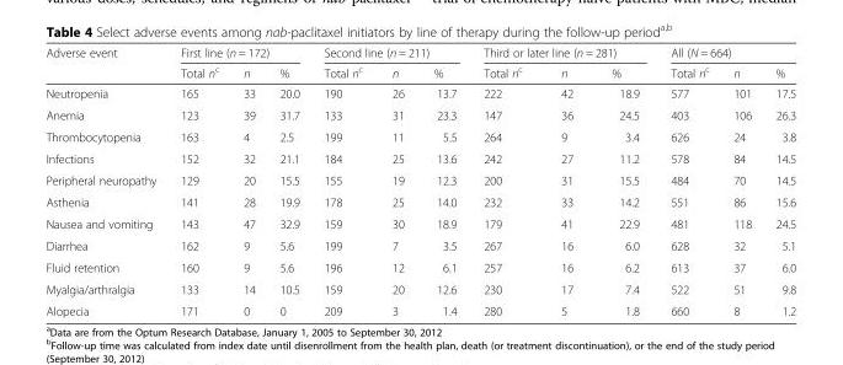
<table><thead><tr><td rowspan="2">Adverse event</td><td colspan="3">First line (n = 172)</td><td colspan="3">Second line (n = 211)</td><td colspan="3">Third or later line (n = 281)</td><td colspan="3">All (N = 664)</td></tr><tr><td>Total n<sup>c</sup></td><td>n</td><td>%</td><td>Total n<sup>c</sup></td><td>n</td><td>%</td><td>Total n<sup>c</sup></td><td>n</td><td>%</td><td>Total n<sup>c</sup></td><td>n</td><td>%</td></tr></thead><tbody><tr><td>Neutropenia</td><td>165</td><td>33</td><td>20.0</td><td>190</td><td>26</td><td>13.7</td><td>222</td><td>42</td><td>18.9</td><td>577</td><td>101</td><td>17.5</td></tr><tr><td>Anemia</td><td>123</td><td>39</td><td>31.7</td><td>133</td><td>31</td><td>23.3</td><td>147</td><td>36</td><td>24.5</td><td>403</td><td>106</td><td>26.3</td></tr><tr><td>Thrombocytopenia</td><td>163</td><td>4</td><td>2.5</td><td>199</td><td>11</td><td>5.5</td><td>264</td><td>9</td><td>3.4</td><td>626</td><td>24</td><td>3.8</td></tr><tr><td>Infections</td><td>152</td><td>32</td><td>21.1</td><td>184</td><td>25</td><td>13.6</td><td>242</td><td>27</td><td>11.2</td><td>578</td><td>84</td><td>14.5</td></tr><tr><td>Peripheral neuropathy</td><td>129</td><td>20</td><td>15.5</td><td>155</td><td>19</td><td>12.3</td><td>200</td><td>31</td><td>15.5</td><td>484</td><td>70</td><td>14.5</td></tr><tr><td>Asthenia</td><td>141</td><td>28</td><td>19.9</td><td>178</td><td>25</td><td>14.0</td><td>232</td><td>33</td><td>14.2</td><td>551</td><td>86</td><td>15.6</td></tr><tr><td>Nausea and vomiting</td><td>143</td><td>47</td><td>32.9</td><td>159</td><td>30</td><td>18.9</td><td>179</td><td>41</td><td>22.9</td><td>481</td><td>118</td><td>24.5</td></tr><tr><td>Diarrhea</td><td>162</td><td>9</td><td>5.6</td><td>199</td><td>7</td><td>3.5</td><td>267</td><td>16</td><td>6.0</td><td>628</td><td>32</td><td>5.1</td></tr><tr><td>Fluid retention</td><td>160</td><td>9</td><td>5.6</td><td>196</td><td>12</td><td>6.1</td><td>257</td><td>16</td><td>6.2</td><td>613</td><td>37</td><td>6.0</td></tr><tr><td>Myalgia/arthralgia</td><td>133</td><td>14</td><td>10.5</td><td>159</td><td>20</td><td>12.6</td><td>230</td><td>17</td><td>7.4</td><td>522</td><td>51</td><td>9.8</td></tr><tr><td>Alopecia</td><td>171</td><td>0</td><td>0</td><td>209</td><td>3</td><td>1.4</td><td>280</td><td>5</td><td>1.8</td><td>660</td><td>8</td><td>1.2</td></tr></tbody></table>